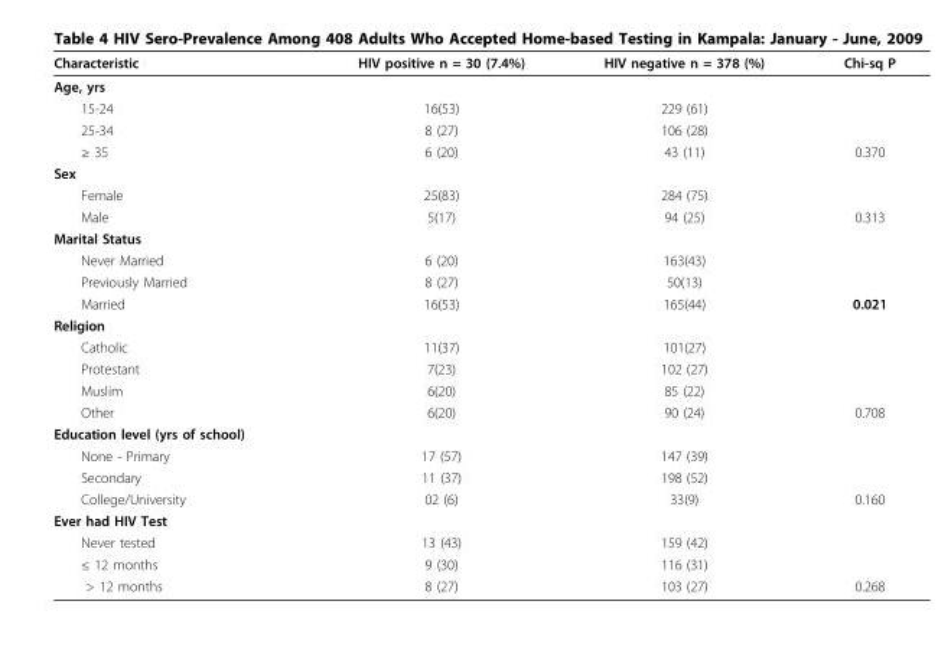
<table><thead><tr><td>Characteristic</td><td>HIV positive n = 30 (7.4%)</td><td>HIV negative n = 378 (%)</td><td>Chi-sq P</td></tr></thead><tbody><tr><td colspan="4">Age, yrs</td></tr><tr><td>15-24</td><td>16(53)</td><td>229 (61)</td><td></td></tr><tr><td>25-34</td><td>8 (27)</td><td>106 (28)</td><td></td></tr><tr><td>≥ 35</td><td>6 (20)</td><td>43 (11)</td><td>0.370</td></tr><tr><td colspan="4">Sex</td></tr><tr><td>Female</td><td>25(83)</td><td>284 (75)</td><td></td></tr><tr><td>Male</td><td>5(17)</td><td>94 (25)</td><td>0.313</td></tr><tr><td colspan="4">Marital Status</td></tr><tr><td>Never Married</td><td>6 (20)</td><td>163(43)</td><td></td></tr><tr><td>Previously Married</td><td>8 (27)</td><td>50(13)</td><td></td></tr><tr><td>Married</td><td>16(53)</td><td>165(44)</td><td>0.021</td></tr><tr><td colspan="4">Religion</td></tr><tr><td>Catholic</td><td>11(37)</td><td>101(27)</td><td></td></tr><tr><td>Protestant</td><td>7(23)</td><td>102 (27)</td><td></td></tr><tr><td>Muslim</td><td>6(20)</td><td>85 (22)</td><td></td></tr><tr><td>Other</td><td>6(20)</td><td>90 (24)</td><td>0.708</td></tr><tr><td colspan="4">Education level (yrs of school)</td></tr><tr><td>None - Primary</td><td>17 (57)</td><td>147 (39)</td><td></td></tr><tr><td>Secondary</td><td>11 (37)</td><td>198 (52)</td><td></td></tr><tr><td>College/University</td><td>02 (6)</td><td>33(9)</td><td>0.160</td></tr><tr><td colspan="4">Ever had HIV Test</td></tr><tr><td>Never tested</td><td>13 (43)</td><td>159 (42)</td><td></td></tr><tr><td>≤ 12 months</td><td>9 (30)</td><td>116 (31)</td><td></td></tr><tr><td>&gt; 12 months</td><td>8 (27)</td><td>103 (27)</td><td>0.268</td></tr></tbody></table>